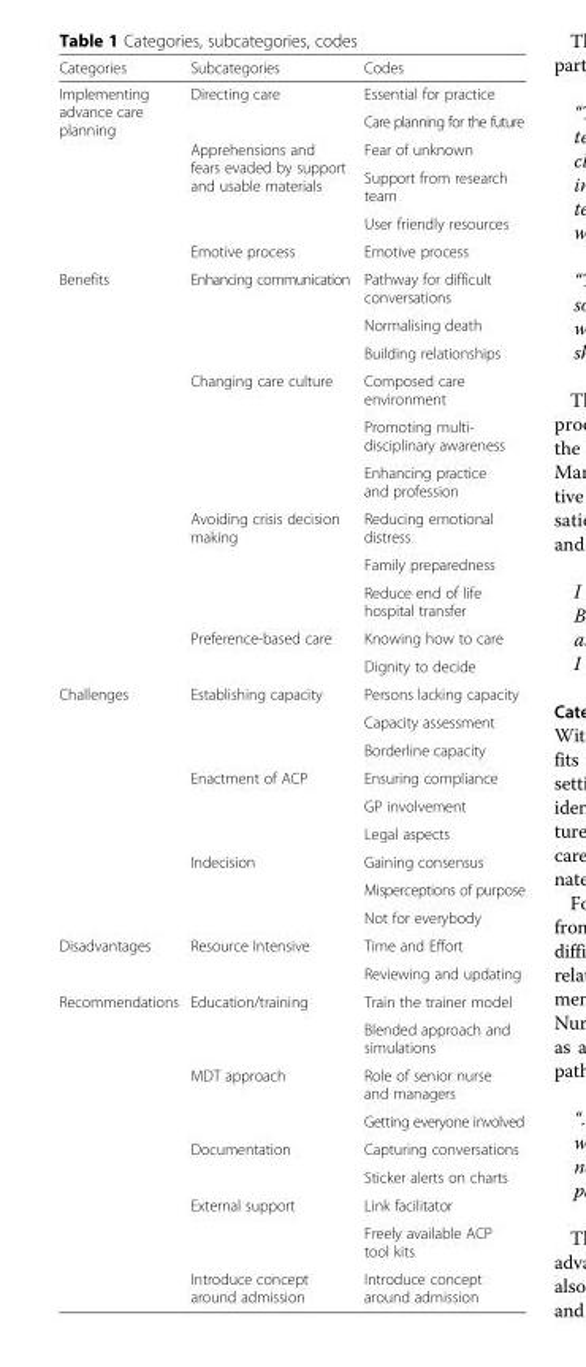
<table><thead><tr><td>Categories</td><td>Subcategories</td><td>Codes</td></tr></thead><tbody><tr><td rowspan="6">Implementing advance care planning</td><td rowspan="2">Directing care</td><td>Essential for practice</td></tr><tr><td>Care planning for the future</td></tr><tr><td rowspan="3">Apprehensions and fears evaded by support and usable materials</td><td>Fear of unknown</td></tr><tr><td>Support from research team</td></tr><tr><td>User friendly resources</td></tr><tr><td>Emotive process</td><td>Emotive process</td></tr><tr><td rowspan="11">Benefits</td><td rowspan="3">Enhancing communication</td><td>Pathway for difficult conversations</td></tr><tr><td>Normalising death</td></tr><tr><td>Building relationships</td></tr><tr><td rowspan="3">Changing care culture</td><td>Composed care environment</td></tr><tr><td>Promoting multi- disciplinary awareness</td></tr><tr><td>Enhancing practice and profession</td></tr><tr><td rowspan="3">Avoiding crisis decision making</td><td>Reducing emotional distress</td></tr><tr><td>Family preparedness</td></tr><tr><td>Reduce end of life hospital transfer</td></tr><tr><td rowspan="2">Preference-based care</td><td>Knowing how to care</td></tr><tr><td>Dignity to decide</td></tr><tr><td rowspan="9">Challenges</td><td rowspan="3">Establishing capacity</td><td>Persons lacking capacity</td></tr><tr><td>Capacity assessment</td></tr><tr><td>Borderline capacity</td></tr><tr><td rowspan="3">Enactment of ACP</td><td>Ensuring compliance</td></tr><tr><td>GP involvement</td></tr><tr><td>Legal aspects</td></tr><tr><td rowspan="3">Indecision</td><td>Gaining consensus</td></tr><tr><td>Misperceptions of purpose</td></tr><tr><td>Not for everybody</td></tr><tr><td rowspan="2">Disadvantages</td><td rowspan="2">Resource Intensive</td><td>Time and Effort</td></tr><tr><td>Reviewing and updating</td></tr><tr><td rowspan="9">Recommendations</td><td rowspan="2">Education/training</td><td>Train the trainer model</td></tr><tr><td>Blended approach and simulations</td></tr><tr><td rowspan="2">MDT approach</td><td>Role of senior nurse and managers</td></tr><tr><td>Getting everyone involved</td></tr><tr><td rowspan="2">Documentation</td><td>Capturing conversations</td></tr><tr><td>Sticker alerts on charts</td></tr><tr><td rowspan="2">External support</td><td>Link facilitator</td></tr><tr><td>Freely available ACP tool kits</td></tr><tr><td>Introduce concept around admission</td><td>Introduce concept around admission</td></tr></tbody></table>